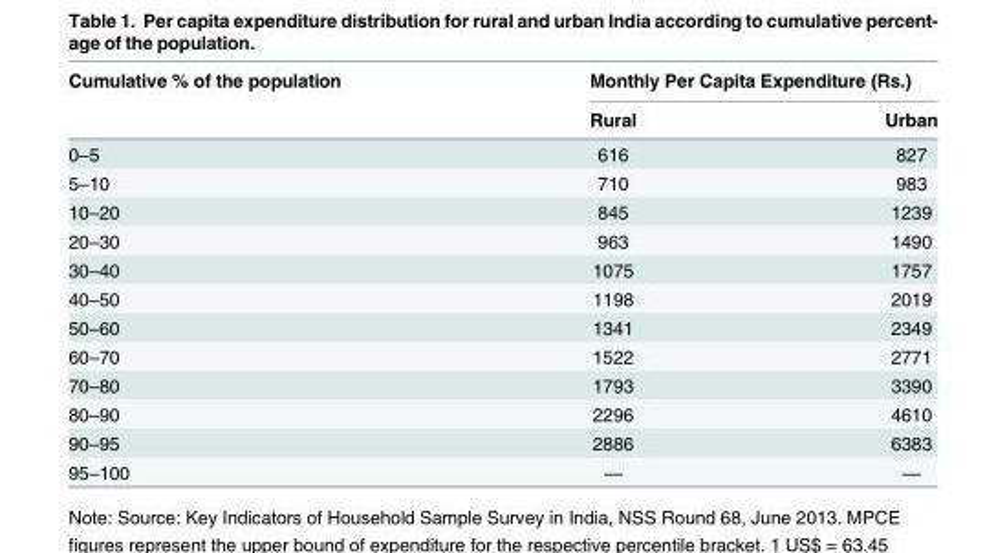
<table><thead><tr><td rowspan="2">Cumulative % of the population</td><td colspan="2">Monthly Per Capita Expenditure (Rs.)</td></tr><tr><td>Rural</td><td>Urban</td></tr></thead><tbody><tr><td>0–5</td><td>616</td><td>827</td></tr><tr><td>5–10</td><td>710</td><td>983</td></tr><tr><td>10–20</td><td>845</td><td>1239</td></tr><tr><td>20–30</td><td>963</td><td>1490</td></tr><tr><td>30–40</td><td>1075</td><td>1757</td></tr><tr><td>40–50</td><td>1198</td><td>2019</td></tr><tr><td>50–60</td><td>1341</td><td>2349</td></tr><tr><td>60–70</td><td>1522</td><td>2771</td></tr><tr><td>70–80</td><td>1793</td><td>3390</td></tr><tr><td>80–90</td><td>2296</td><td>4610</td></tr><tr><td>90–95</td><td>2886</td><td>6383</td></tr><tr><td>95–100</td><td>—</td><td>—</td></tr></tbody></table>